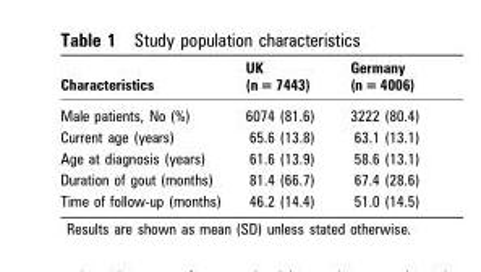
<table><thead><tr><td>Characteristics</td><td>UK (n = 7443)</td><td>Germany (n = 4006)</td></tr></thead><tbody><tr><td>Male patients, No (%)</td><td>6074 (81.6)</td><td>3222 (80.4)</td></tr><tr><td>Current age (years)</td><td>65.6 (13.8)</td><td>63.1 (13.1)</td></tr><tr><td>Age at diagnosis (years)</td><td>61.6 (13.9)</td><td>58.6 (13.1)</td></tr><tr><td>Duration of gout (months)</td><td>81.4 (66.7)</td><td>67.4 (28.6)</td></tr><tr><td>Time of follow-up (months)</td><td>46.2 (14.4)</td><td>51.0 (14.5)</td></tr></tbody></table>